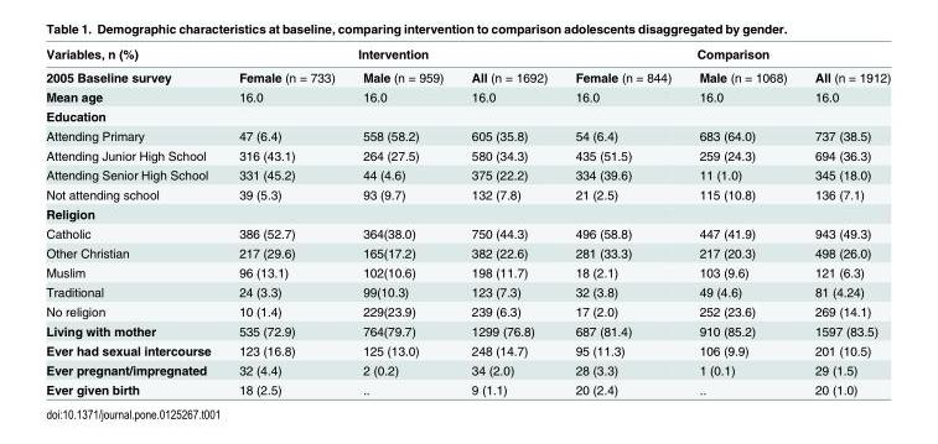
<table><thead><tr><td rowspan="2">Variables, n (%) 2005 Baseline survey</td><td colspan="3">Intervention</td><td colspan="3">Comparison</td></tr><tr><td>Female (n = 733)</td><td>Male (n = 959)</td><td>All (n = 1692)</td><td>Female (n = 844)</td><td>Male (n = 1068)</td><td>All (n = 1912)</td></tr></thead><tbody><tr><td>Mean age</td><td>16.0</td><td>16.0</td><td>16.0</td><td>16.0</td><td>16.0</td><td>16.0</td></tr><tr><td colspan="7">Education</td></tr><tr><td>Attending Primary</td><td>47 (6.4)</td><td>558 (58.2)</td><td>605 (35.8)</td><td>54 (6.4)</td><td>683 (64.0)</td><td>737 (38.5)</td></tr><tr><td>Attending Junior High School</td><td>316 (43.1)</td><td>264 (27.5)</td><td>580 (34.3)</td><td>435 (51.5)</td><td>259 (24.3)</td><td>694 (36.3)</td></tr><tr><td>Attending Senior High School</td><td>331 (45.2)</td><td>44 (4.6)</td><td>375 (22.2)</td><td>334 (39.6)</td><td>11 (1.0)</td><td>345 (18.0)</td></tr><tr><td>Not attending school</td><td>39 (5.3)</td><td>93 (9.7)</td><td>132 (7.8)</td><td>21 (2.5)</td><td>115 (10.8)</td><td>136 (7.1)</td></tr><tr><td colspan="7">Religion</td></tr><tr><td>Catholic</td><td>386 (52.7)</td><td>364(38.0)</td><td>750 (44.3)</td><td>496 (58.8)</td><td>447 (41.9)</td><td>943 (49.3)</td></tr><tr><td>Other Christian</td><td>217 (29.6)</td><td>165(17.2)</td><td>382 (22.6)</td><td>281 (33.3)</td><td>217 (20.3)</td><td>498 (26.0)</td></tr><tr><td>Muslim</td><td>96 (13.1)</td><td>102(10.6)</td><td>198 (11.7)</td><td>18 (2.1)</td><td>103 (9.6)</td><td>121 (6.3)</td></tr><tr><td>Traditional</td><td>24 (3.3)</td><td>99(10.3)</td><td>123 (7.3)</td><td>32 (3.8)</td><td>49 (4.6)</td><td>81 (4.24)</td></tr><tr><td>No religion</td><td>10 (1.4)</td><td>229(23.9)</td><td>239 (6.3)</td><td>17 (2.0)</td><td>252 (23.6)</td><td>269 (14.1)</td></tr><tr><td>Living with mother</td><td>535 (72.9)</td><td>764(79.7)</td><td>1299 (76.8)</td><td>687 (81.4)</td><td>910 (85.2)</td><td>1597 (83.5)</td></tr><tr><td>Ever had sexual intercourse</td><td>123 (16.8)</td><td>125 (13.0)</td><td>248 (14.7)</td><td>95 (11.3)</td><td>106 (9.9)</td><td>201 (10.5)</td></tr><tr><td>Ever pregnant/impregnated</td><td>32 (4.4)</td><td>2 (0.2)</td><td>34 (2.0)</td><td>28 (3.3)</td><td>1 (0.1)</td><td>29 (1.5)</td></tr><tr><td>Ever given birth</td><td>18 (2.5)</td><td>..</td><td>9 (1.1)</td><td>20 (2.4)</td><td>..</td><td>20 (1.0)</td></tr></tbody></table>